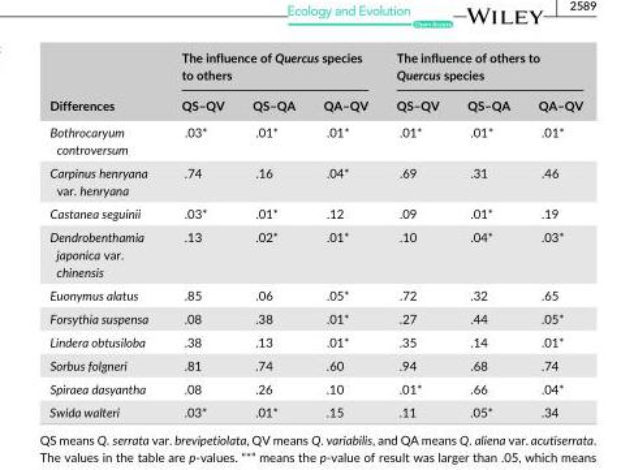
<table><thead><tr><td rowspan="2">Differences</td><td colspan="3">The influence of Quercus species to others</td><td colspan="3">The influence of others to Quercus species</td></tr><tr><td>QS–QV</td><td>QS–QA</td><td>QA–QV</td><td>QS–QV</td><td>QS–QA</td><td>QA–QV</td></tr></thead><tbody><tr><td>Bothrocaryum controversum</td><td>.03*</td><td>.01*</td><td>.01*</td><td>.01*</td><td>.01*</td><td>.01*</td></tr><tr><td>Carpinus henryana var. henryana</td><td>.74</td><td>.16</td><td>.04*</td><td>.69</td><td>.31</td><td>.46</td></tr><tr><td>Castanea seguinii</td><td>.03*</td><td>.01*</td><td>.12</td><td>.09</td><td>.01*</td><td>.19</td></tr><tr><td>Dendrobenthamia japonica var. chinensis</td><td>.13</td><td>.02*</td><td>.01*</td><td>.10</td><td>.04*</td><td>.03*</td></tr><tr><td>Euonymus alatus</td><td>.85</td><td>.06</td><td>.05*</td><td>.72</td><td>.32</td><td>.65</td></tr><tr><td>Forsythia suspensa</td><td>.08</td><td>.38</td><td>.01*</td><td>.27</td><td>.44</td><td>.05*</td></tr><tr><td>Lindera obtusiloba</td><td>.38</td><td>.13</td><td>.01*</td><td>.35</td><td>.14</td><td>.01*</td></tr><tr><td>Sorbus folgneri</td><td>.81</td><td>.74</td><td>.60</td><td>.94</td><td>.68</td><td>.74</td></tr><tr><td>Spiraea dasyantha</td><td>.08</td><td>.26</td><td>.10</td><td>.01*</td><td>.66</td><td>.04*</td></tr><tr><td>Swida walteri</td><td>.03*</td><td>.01*</td><td>.15</td><td>.11</td><td>.05*</td><td>.34</td></tr></tbody></table>